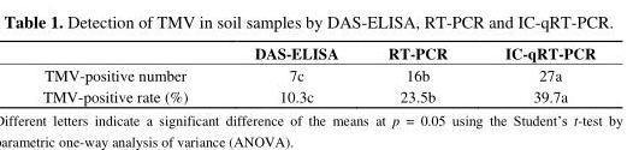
<table><thead><tr><td></td><td>DAS-ELISA</td><td>RT-PCR</td><td>IC-qRT-PCR</td></tr></thead><tbody><tr><td>TMV-positive number</td><td>7c</td><td>16b</td><td>27a</td></tr><tr><td>TMV-positive rate (%)</td><td>10.3c</td><td>23.5b</td><td>39.7a</td></tr></tbody></table>